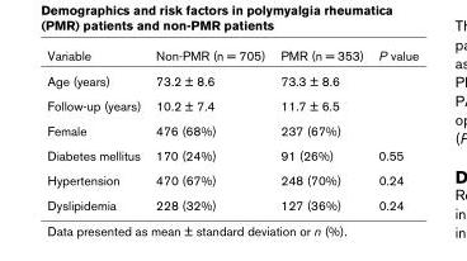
<table><thead><tr><td>Variable</td><td>Non-PMR (n = 705)</td><td>PMR (n = 353)</td><td>P value</td></tr></thead><tbody><tr><td>Age (years)</td><td>73.2 ± 8.6</td><td>73.3 ± 8.6</td><td></td></tr><tr><td>Follow-up (years)</td><td>10.2 ± 7.4</td><td>11.7 ± 6.5</td><td></td></tr><tr><td>Female</td><td>476 (68%)</td><td>237 (67%)</td><td></td></tr><tr><td>Diabetes mellitus</td><td>170 (24%)</td><td>91 (26%)</td><td>0.55</td></tr><tr><td>Hypertension</td><td>470 (67%)</td><td>248 (70%)</td><td>0.24</td></tr><tr><td>Dyslipidemia</td><td>228 (32%)</td><td>127 (36%)</td><td>0.24</td></tr></tbody></table>